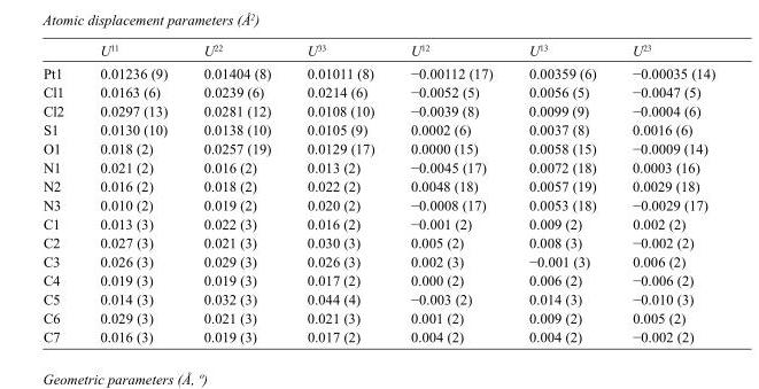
<table><thead><tr><td></td><td>U<sup>11</sup></td><td>U<sup>22</sup></td><td>U<sup>33</sup></td><td>U<sup>12</sup></td><td>U<sup>13</sup></td><td>U<sup>23</sup></td></tr></thead><tbody><tr><td>Pt1</td><td>0.01236 (9)</td><td>0.01404 (8)</td><td>0.01011 (8)</td><td>−0.00112 (17)</td><td>0.00359 (6)</td><td>−0.00035 (14)</td></tr><tr><td>Cl1</td><td>0.0163 (6)</td><td>0.0239 (6)</td><td>0.0214 (6)</td><td>−0.0052 (5)</td><td>0.0056 (5)</td><td>−0.0047 (5)</td></tr><tr><td>Cl2</td><td>0.0297 (13)</td><td>0.0281 (12)</td><td>0.0108 (10)</td><td>−0.0039 (8)</td><td>0.0099 (9)</td><td>−0.0004 (6)</td></tr><tr><td>S1</td><td>0.0130 (10)</td><td>0.0138 (10)</td><td>0.0105 (9)</td><td>0.0002 (6)</td><td>0.0037 (8)</td><td>0.0016 (6)</td></tr><tr><td>O1</td><td>0.018 (2)</td><td>0.0257 (19)</td><td>0.0129 (17)</td><td>0.0000 (15)</td><td>0.0058 (15)</td><td>−0.0009 (14)</td></tr><tr><td>N1</td><td>0.021 (2)</td><td>0.016 (2)</td><td>0.013 (2)</td><td>−0.0045 (17)</td><td>0.0072 (18)</td><td>0.0003 (16)</td></tr><tr><td>N2</td><td>0.016 (2)</td><td>0.018 (2)</td><td>0.022 (2)</td><td>0.0048 (18)</td><td>0.0057 (19)</td><td>0.0029 (18)</td></tr><tr><td>N3</td><td>0.010 (2)</td><td>0.019 (2)</td><td>0.020 (2)</td><td>−0.0008 (17)</td><td>0.0053 (18)</td><td>−0.0029 (17)</td></tr><tr><td>C1</td><td>0.013 (3)</td><td>0.022 (3)</td><td>0.016 (2)</td><td>−0.001 (2)</td><td>0.009 (2)</td><td>0.002 (2)</td></tr><tr><td>C2</td><td>0.027 (3)</td><td>0.021 (3)</td><td>0.030 (3)</td><td>0.005 (2)</td><td>0.008 (3)</td><td>−0.002 (2)</td></tr><tr><td>C3</td><td>0.026 (3)</td><td>0.029 (3)</td><td>0.026 (3)</td><td>0.002 (3)</td><td>−0.001 (3)</td><td>0.006 (2)</td></tr><tr><td>C4</td><td>0.019 (3)</td><td>0.019 (3)</td><td>0.017 (2)</td><td>0.000 (2)</td><td>0.006 (2)</td><td>−0.006 (2)</td></tr><tr><td>C5</td><td>0.014 (3)</td><td>0.032 (3)</td><td>0.044 (4)</td><td>−0.003 (2)</td><td>0.014 (3)</td><td>−0.010 (3)</td></tr><tr><td>C6</td><td>0.029 (3)</td><td>0.021 (3)</td><td>0.021 (3)</td><td>0.001 (2)</td><td>0.009 (2)</td><td>0.005 (2)</td></tr><tr><td>C7</td><td>0.016 (3)</td><td>0.019 (3)</td><td>0.017 (2)</td><td>0.004 (2)</td><td>0.004 (2)</td><td>−0.002 (2)</td></tr></tbody></table>